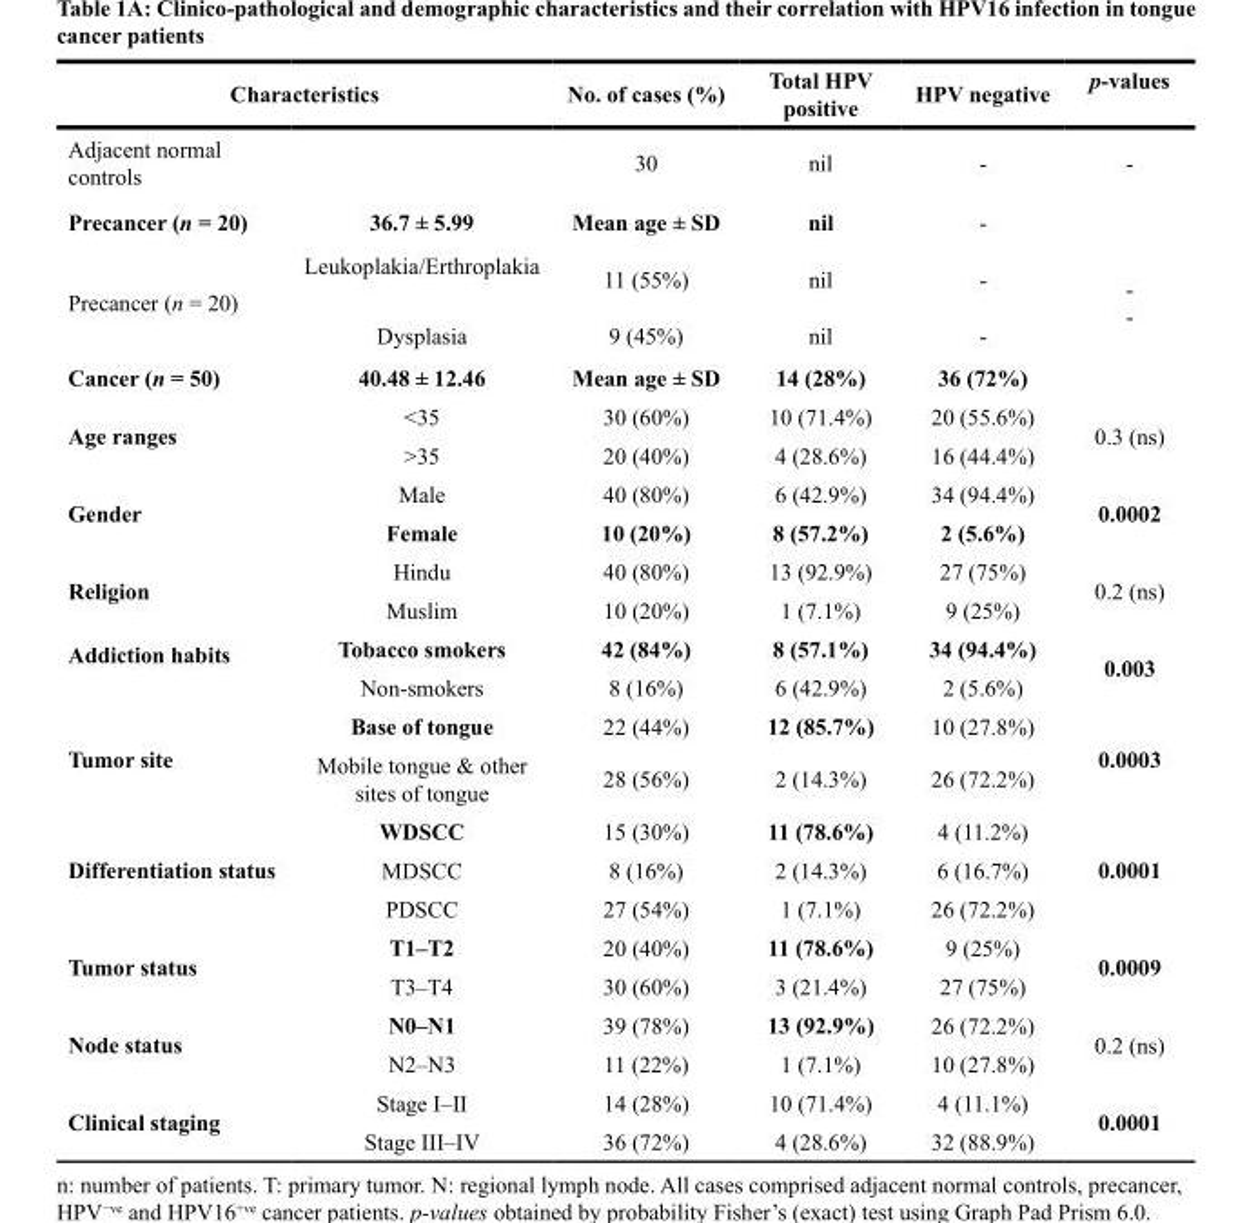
<table><thead><tr><td colspan="2">Characteristics</td><td rowspan="2">No. of cases (%) 30</td><td rowspan="2">Total HPV positive nil</td><td rowspan="2">HPV negative -</td><td rowspan="2">p-values -</td></tr><tr><td>Adjacent normal controls</td><td></td></tr></thead><tbody><tr><td>Precancer (n = 20)</td><td>36.7 ± 5.99</td><td>Mean age ± SD</td><td>nil</td><td>-</td><td></td></tr><tr><td rowspan="2">Precancer (n = 20)</td><td>Leukoplakia/Erthroplakia</td><td>11 (55%)</td><td>nil</td><td>-</td><td rowspan="2">- -</td></tr><tr><td>Dysplasia</td><td>9 (45%)</td><td>nil</td><td>-</td></tr><tr><td>Cancer (n = 50)</td><td>40.48 ± 12.46</td><td>Mean age ± SD</td><td>14 (28%)</td><td>36 (72%)</td><td></td></tr><tr><td rowspan="2">Age ranges</td><td>&lt;35</td><td>30 (60%)</td><td>10 (71.4%)</td><td>20 (55.6%)</td><td rowspan="2">0.3 (ns)</td></tr><tr><td>&gt;35</td><td>20 (40%)</td><td>4 (28.6%)</td><td>16 (44.4%)</td></tr><tr><td rowspan="2">Gender</td><td>Male</td><td>40 (80%)</td><td>6 (42.9%)</td><td>34 (94.4%)</td><td rowspan="2">0.0002</td></tr><tr><td>Female</td><td>10 (20%)</td><td>8 (57.2%)</td><td>2 (5.6%)</td></tr><tr><td rowspan="2">Religion</td><td>Hindu</td><td>40 (80%)</td><td>13 (92.9%)</td><td>27 (75%)</td><td rowspan="2">0.2 (ns)</td></tr><tr><td>Muslim</td><td>10 (20%)</td><td>1 (7.1%)</td><td>9 (25%)</td></tr><tr><td rowspan="2">Addiction habits</td><td>Tobacco smokers</td><td>42 (84%)</td><td>8 (57.1%)</td><td>34 (94.4%)</td><td rowspan="2">0.003</td></tr><tr><td>Non-smokers</td><td>8 (16%)</td><td>6 (42.9%)</td><td>2 (5.6%)</td></tr><tr><td rowspan="2">Tumor site</td><td>Base of tongue</td><td>22 (44%)</td><td>12 (85.7%)</td><td>10 (27.8%)</td><td rowspan="2">0.0003</td></tr><tr><td>Mobile tongue &amp; other sites of tongue</td><td>28 (56%)</td><td>2 (14.3%)</td><td>26 (72.2%)</td></tr><tr><td rowspan="3">Differentiation status</td><td>WDSCC</td><td>15 (30%)</td><td>11 (78.6%)</td><td>4 (11.2%)</td><td rowspan="3">0.0001</td></tr><tr><td>MDSCC</td><td>8 (16%)</td><td>2 (14.3%)</td><td>6 (16.7%)</td></tr><tr><td>PDSCC</td><td>27 (54%)</td><td>1 (7.1%)</td><td>26 (72.2%)</td></tr><tr><td rowspan="2">Tumor status</td><td>T1–T2</td><td>20 (40%)</td><td>11 (78.6%)</td><td>9 (25%)</td><td rowspan="2">0.0009</td></tr><tr><td>T3–T4</td><td>30 (60%)</td><td>3 (21.4%)</td><td>27 (75%)</td></tr><tr><td rowspan="2">Node status</td><td>N0–N1</td><td>39 (78%)</td><td>13 (92.9%)</td><td>26 (72.2%)</td><td rowspan="2">0.2 (ns)</td></tr><tr><td>N2–N3</td><td>11 (22%)</td><td>1 (7.1%)</td><td>10 (27.8%)</td></tr><tr><td rowspan="2">Clinical staging</td><td>Stage I–II</td><td>14 (28%)</td><td>10 (71.4%)</td><td>4 (11.1%)</td><td rowspan="2">0.0001</td></tr><tr><td>Stage III–IV</td><td>36 (72%)</td><td>4 (28.6%)</td><td>32 (88.9%)</td></tr></tbody></table>